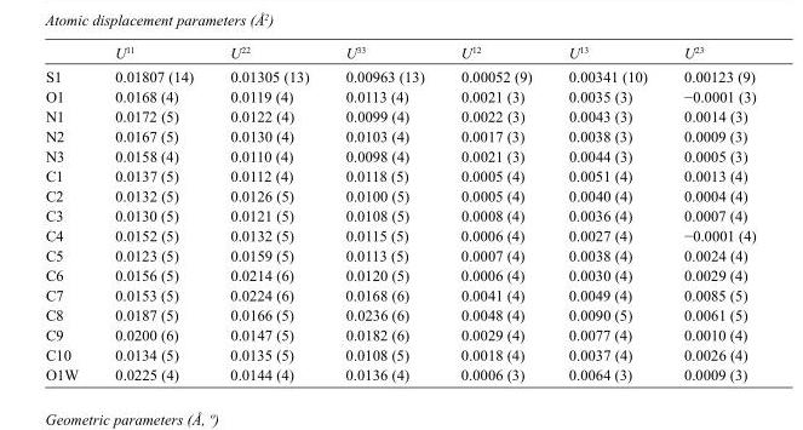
<table><thead><tr><td></td><td>U<sup>11</sup></td><td>U<sup>22</sup></td><td>U<sup>33</sup></td><td>U<sup>12</sup></td><td>U<sup>13</sup></td><td>U<sup>23</sup></td></tr></thead><tbody><tr><td>S1</td><td>0.01807 (14)</td><td>0.01305 (13)</td><td>0.00963 (13)</td><td>0.00052 (9)</td><td>0.00341 (10)</td><td>0.00123 (9)</td></tr><tr><td>O1</td><td>0.0168 (4)</td><td>0.0119 (4)</td><td>0.0113 (4)</td><td>0.0021 (3)</td><td>0.0035 (3)</td><td>−0.0001 (3)</td></tr><tr><td>N1</td><td>0.0172 (5)</td><td>0.0122 (4)</td><td>0.0099 (4)</td><td>0.0022 (3)</td><td>0.0043 (3)</td><td>0.0014 (3)</td></tr><tr><td>N2</td><td>0.0167 (5)</td><td>0.0130 (4)</td><td>0.0103 (4)</td><td>0.0017 (3)</td><td>0.0038 (3)</td><td>0.0009 (3)</td></tr><tr><td>N3</td><td>0.0158 (4)</td><td>0.0110 (4)</td><td>0.0098 (4)</td><td>0.0021 (3)</td><td>0.0044 (3)</td><td>0.0005 (3)</td></tr><tr><td>C1</td><td>0.0137 (5)</td><td>0.0112 (4)</td><td>0.0118 (5)</td><td>0.0005 (4)</td><td>0.0051 (4)</td><td>0.0013 (4)</td></tr><tr><td>C2</td><td>0.0132 (5)</td><td>0.0126 (5)</td><td>0.0100 (5)</td><td>0.0005 (4)</td><td>0.0040 (4)</td><td>0.0004 (4)</td></tr><tr><td>C3</td><td>0.0130 (5)</td><td>0.0121 (5)</td><td>0.0108 (5)</td><td>0.0008 (4)</td><td>0.0036 (4)</td><td>0.0007 (4)</td></tr><tr><td>C4</td><td>0.0152 (5)</td><td>0.0132 (5)</td><td>0.0115 (5)</td><td>0.0006 (4)</td><td>0.0027 (4)</td><td>−0.0001 (4)</td></tr><tr><td>C5</td><td>0.0123 (5)</td><td>0.0159 (5)</td><td>0.0113 (5)</td><td>0.0007 (4)</td><td>0.0038 (4)</td><td>0.0024 (4)</td></tr><tr><td>C6</td><td>0.0156 (5)</td><td>0.0214 (6)</td><td>0.0120 (5)</td><td>0.0006 (4)</td><td>0.0030 (4)</td><td>0.0029 (4)</td></tr><tr><td>C7</td><td>0.0153 (5)</td><td>0.0224 (6)</td><td>0.0168 (6)</td><td>0.0041 (4)</td><td>0.0049 (4)</td><td>0.0085 (5)</td></tr><tr><td>C8</td><td>0.0187 (5)</td><td>0.0166 (5)</td><td>0.0236 (6)</td><td>0.0048 (4)</td><td>0.0090 (5)</td><td>0.0061 (5)</td></tr><tr><td>C9</td><td>0.0200 (6)</td><td>0.0147 (5)</td><td>0.0182 (6)</td><td>0.0029 (4)</td><td>0.0077 (4)</td><td>0.0010 (4)</td></tr><tr><td>C10</td><td>0.0134 (5)</td><td>0.0135 (5)</td><td>0.0108 (5)</td><td>0.0018 (4)</td><td>0.0037 (4)</td><td>0.0026 (4)</td></tr><tr><td>O1W</td><td>0.0225 (4)</td><td>0.0144 (4)</td><td>0.0136 (4)</td><td>0.0006 (3)</td><td>0.0064 (3)</td><td>0.0009 (3)</td></tr></tbody></table>